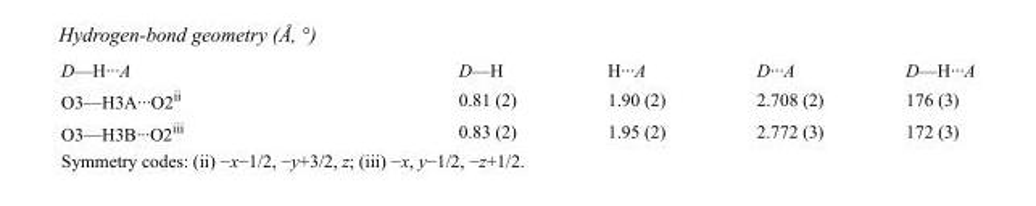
<table><tbody><tr><td>D—H···A</td><td>D—H</td><td>H···A</td><td>D···A</td><td>D—H···A</td></tr><tr><td>O3—H3A···O2<sup>ii</sup></td><td>0.81 (2)</td><td>1.90 (2)</td><td>2.708 (2)</td><td>176 (3)</td></tr><tr><td>O3—H3B···O2<sup>iii</sup></td><td>0.83 (2)</td><td>1.95 (2)</td><td>2.772 (3)</td><td>172 (3)</td></tr></tbody></table>